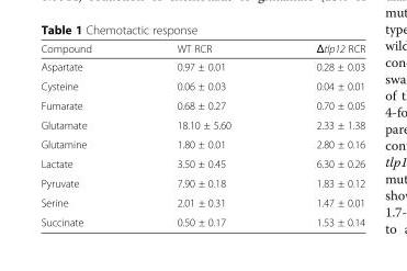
<table><thead><tr><td>Compound</td><td>WT RCR</td><td>Δtlp12 RCR</td></tr></thead><tbody><tr><td>Aspartate</td><td>0.97 ± 0.01</td><td>0.28 ± 0.03</td></tr><tr><td>Cysteine</td><td>0.06 ± 0.03</td><td>0.04 ± 0.01</td></tr><tr><td>Fumarate</td><td>0.68 ± 0.27</td><td>0.70 ± 0.05</td></tr><tr><td>Glutamate</td><td>18.10 ± 5.60</td><td>2.33 ± 1.38</td></tr><tr><td>Glutamine</td><td>1.80 ± 0.01</td><td>2.80 ± 0.16</td></tr><tr><td>Lactate</td><td>3.50 ± 0.45</td><td>6.30 ± 0.26</td></tr><tr><td>Pyruvate</td><td>7.90 ± 0.18</td><td>1.83 ± 0.12</td></tr><tr><td>Serine</td><td>2.01 ± 0.31</td><td>1.47 ± 0.01</td></tr><tr><td>Succinate</td><td>0.50 ± 0.17</td><td>1.53 ± 0.14</td></tr></tbody></table>